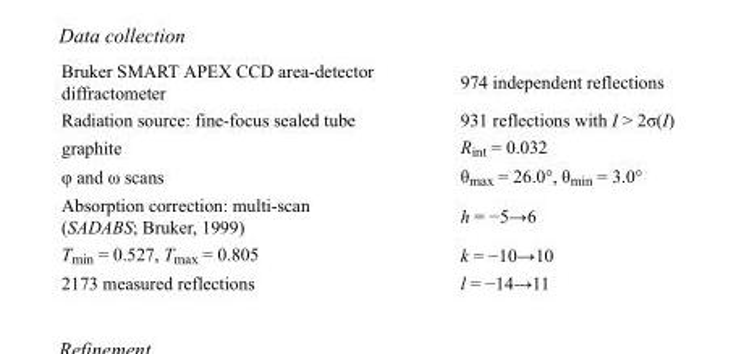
<table><tbody><tr><td>Bruker SMART APEX CCD area-detector diffractometer</td><td>974 independent reflections</td></tr><tr><td>Radiation source: fine-focus sealed tube</td><td>931 reflections with I &gt; 2σ(I)</td></tr><tr><td>graphite</td><td>R<sub>int</sub> = 0.032</td></tr><tr><td>φ and ω scans</td><td>θ<sub>max</sub> = 26.0°, θ<sub>min</sub> = 3.0°</td></tr><tr><td>Absorption correction: multi-scan (SADABS; Bruker, 1999)</td><td>h = −5→6</td></tr><tr><td>T<sub>min</sub> = 0.527, T<sub>max</sub> = 0.805</td><td>k = −10→10</td></tr><tr><td>2173 measured reflections</td><td>l = −14→11</td></tr></tbody></table>